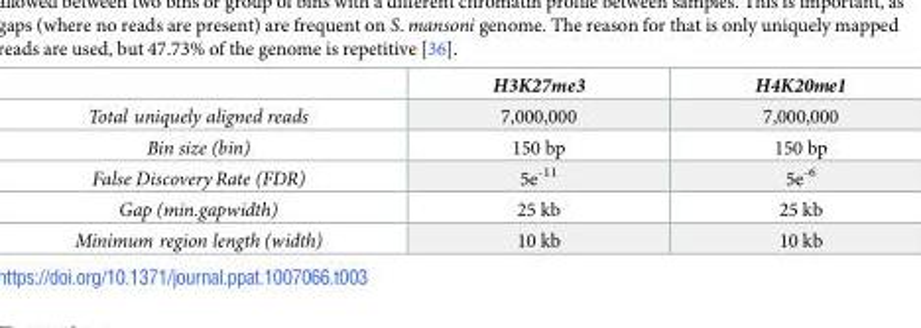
<table><thead><tr><td></td><td>H3K27me3</td><td>H4K20me1</td></tr></thead><tbody><tr><td>Total uniquely aligned reads</td><td>7,000,000</td><td>7,000,000</td></tr><tr><td>Bin size (bin)</td><td>150 bp</td><td>150 bp</td></tr><tr><td>False Discovery Rate (FDR)</td><td>5e<sup>-11</sup></td><td>5e<sup>-6</sup></td></tr><tr><td>Gap (min.gapwidth)</td><td>25 kb</td><td>25 kb</td></tr><tr><td>Minimum region length (width)</td><td>10 kb</td><td>10 kb</td></tr></tbody></table>